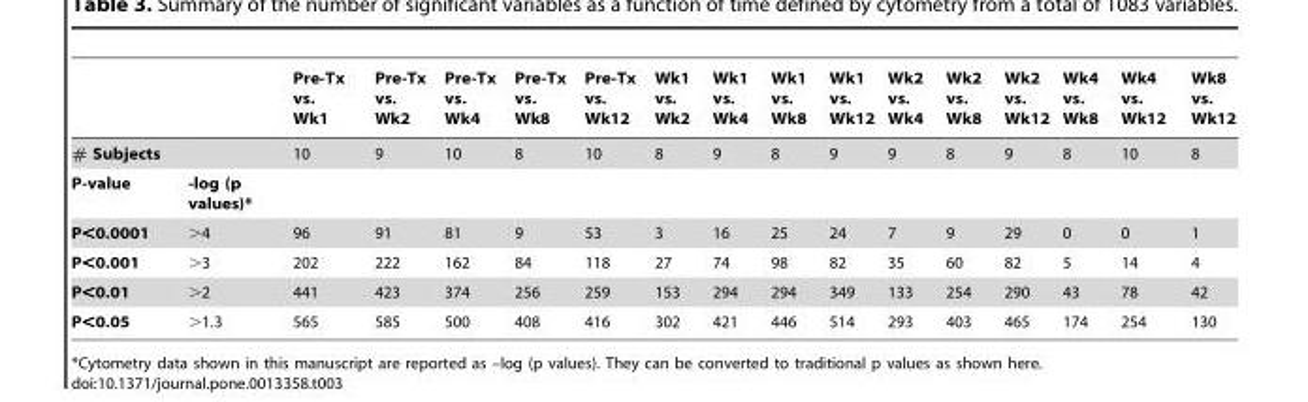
<table><thead><tr><td></td><td></td><td>Pre-Tx vs. Wk1</td><td>Pre-Tx vs. Wk2</td><td>Pre-Tx vs. Wk4</td><td>Pre-Tx vs. Wk8</td><td>Pre-Tx vs. Wk12</td><td>Wk1 vs. Wk2</td><td>Wk1 vs. Wk4</td><td>Wk1 vs. Wk8</td><td>Wk1 vs. Wk12</td><td>Wk2 vs. Wk4</td><td>Wk2 vs. Wk8</td><td>Wk2 vs. Wk12</td><td>Wk4 vs. Wk8</td><td>Wk4 vs. Wk12</td><td>Wk8 vs. Wk12</td></tr></thead><tbody><tr><td># Subjects</td><td></td><td>10</td><td>9</td><td>10</td><td>8</td><td>10</td><td>8</td><td>9</td><td>8</td><td>9</td><td>9</td><td>8</td><td>9</td><td>8</td><td>10</td><td>8</td></tr><tr><td>P-value</td><td>-log (p values)*</td><td></td><td></td><td></td><td></td><td></td><td></td><td></td><td></td><td></td><td></td><td></td><td></td><td></td><td></td><td></td></tr><tr><td>P&lt;0.0001</td><td>&gt;4</td><td>96</td><td>91</td><td>81</td><td>9</td><td>53</td><td>3</td><td>16</td><td>25</td><td>24</td><td>7</td><td>9</td><td>29</td><td>0</td><td>0</td><td>1</td></tr><tr><td>P&lt;0.001</td><td>&gt;3</td><td>202</td><td>222</td><td>162</td><td>84</td><td>118</td><td>27</td><td>74</td><td>98</td><td>82</td><td>35</td><td>60</td><td>82</td><td>5</td><td>14</td><td>4</td></tr><tr><td>P&lt;0.01</td><td>&gt;2</td><td>441</td><td>423</td><td>374</td><td>256</td><td>259</td><td>153</td><td>294</td><td>294</td><td>349</td><td>133</td><td>254</td><td>290</td><td>43</td><td>78</td><td>42</td></tr><tr><td>P&lt;0.05</td><td>&gt;1.3</td><td>565</td><td>585</td><td>500</td><td>408</td><td>416</td><td>302</td><td>421</td><td>446</td><td>514</td><td>293</td><td>403</td><td>465</td><td>174</td><td>254</td><td>130</td></tr></tbody></table>